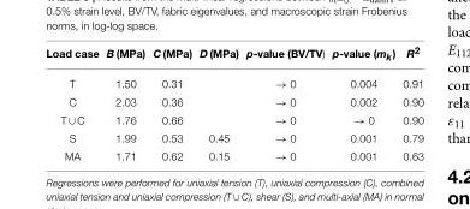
<table><thead><tr><td>Load case</td><td>B (MPa)</td><td>C (MPa)</td><td>D (MPa)</td><td>p-value (BV/TV)</td><td>p-value (m<sub>k</sub>)</td><td>R<sup>2</sup></td></tr></thead><tbody><tr><td>T</td><td>1.50</td><td>0.31</td><td></td><td>→ 0</td><td>0.004</td><td>0.91</td></tr><tr><td>C</td><td>2.03</td><td>0.36</td><td></td><td>→ 0</td><td>0.002</td><td>0.90</td></tr><tr><td>T ∪ C</td><td>1.76</td><td>0.66</td><td></td><td>→ 0</td><td>→ 0</td><td>0.90</td></tr><tr><td>S</td><td>1.99</td><td>0.53</td><td>0.45</td><td>→ 0</td><td>0.001</td><td>0.79</td></tr><tr><td>MA</td><td>1.71</td><td>0.62</td><td>0.15</td><td>→ 0</td><td>0.001</td><td>0.63</td></tr></tbody></table>